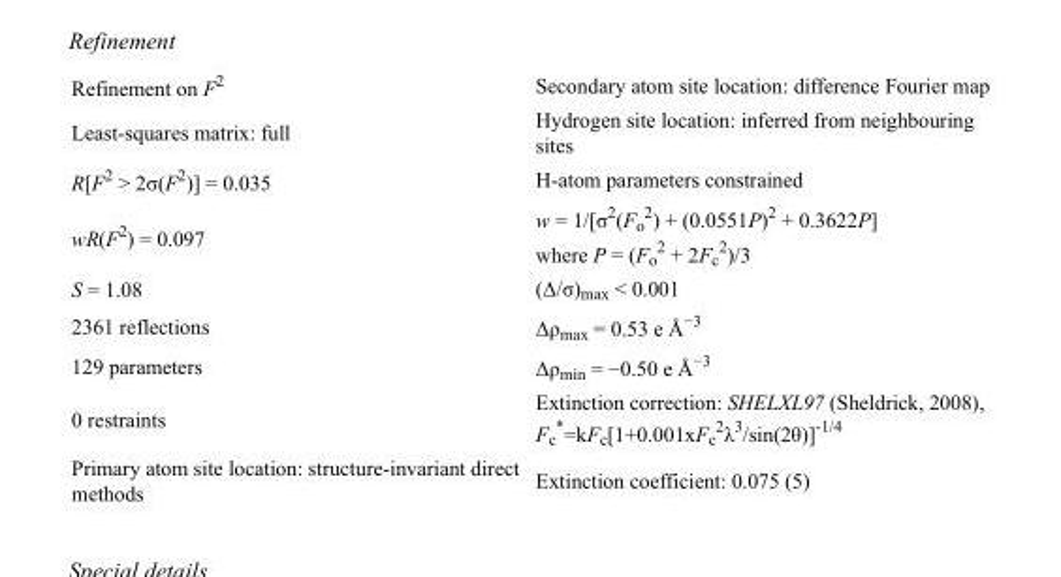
<table><tbody><tr><td>Refinement on F<sup>2</sup></td><td>Secondary atom site location: difference Fourier map</td></tr><tr><td>Least-squares matrix: full</td><td>Hydrogen site location: inferred from neighbouring sites</td></tr><tr><td>R[F<sup>2</sup> &gt; 2σ(F<sup>2</sup>)] = 0.035</td><td>H-atom parameters constrained</td></tr><tr><td>wR(F<sup>2</sup>) = 0.097</td><td>w = 1/[σ<sup>2</sup>(F<sub>o</sub> <sup>2</sup>) + (0.0551P)<sup>2</sup> + 0.3622P] where P = (F<sub>o</sub> <sup>2</sup> + 2F<sub>c</sub> <sup>2</sup>)/3</td></tr><tr><td>S = 1.08</td><td>(Δ/σ)<sub>max</sub> &lt; 0.001</td></tr><tr><td>2361 reflections</td><td>Δρ<sub>max</sub> = 0.53 e Å<sup>−3</sup></td></tr><tr><td>129 parameters</td><td>Δρ<sub>min</sub> = −0.50 e Å<sup>−3</sup></td></tr><tr><td>0 restraints</td><td>Extinction correction: SHELXL97 (Sheldrick, 2008), F<sub>c</sub> *=kF<sub>c</sub>[1+0.001xF<sub>c</sub> <sup>2</sup>λ<sup>3</sup>/sin(2θ)]<sup>-1/4</sup></td></tr><tr><td>Primary atom site location: structure-invariant direct methods</td><td>Extinction coefficient: 0.075 (5)</td></tr></tbody></table>